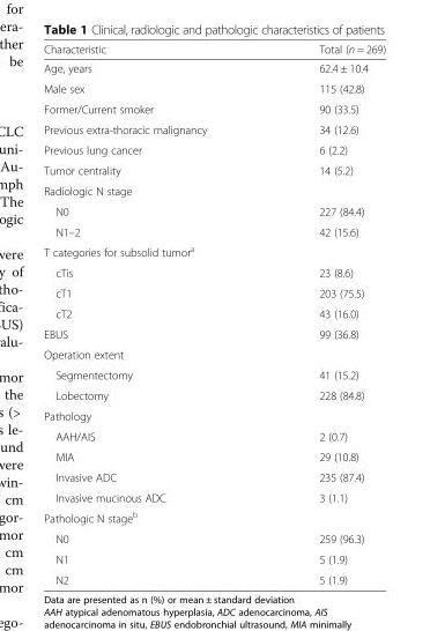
<table><thead><tr><td>Characteristic</td><td>Total (n = 269)</td></tr></thead><tbody><tr><td>Age, years</td><td>62.4 ± 10.4</td></tr><tr><td>Male sex</td><td>115 (42.8)</td></tr><tr><td>Former/Current smoker</td><td>90 (33.5)</td></tr><tr><td>Previous extra-thoracic malignancy</td><td>34 (12.6)</td></tr><tr><td>Previous lung cancer</td><td>6 (2.2)</td></tr><tr><td>Tumor centrality</td><td>14 (5.2)</td></tr><tr><td colspan="2">Radiologic N stage</td></tr><tr><td>N0</td><td>227 (84.4)</td></tr><tr><td>N1–2</td><td>42 (15.6)</td></tr><tr><td colspan="2">T categories for subsolid tumor<sup>a</sup></td></tr><tr><td>cTis</td><td>23 (8.6)</td></tr><tr><td>cT1</td><td>203 (75.5)</td></tr><tr><td>cT2</td><td>43 (16.0)</td></tr><tr><td>EBUS</td><td>99 (36.8)</td></tr><tr><td colspan="2">Operation extent</td></tr><tr><td>Segmentectomy</td><td>41 (15.2)</td></tr><tr><td>Lobectomy</td><td>228 (84.8)</td></tr><tr><td colspan="2">Pathology</td></tr><tr><td>AAH/AIS</td><td>2 (0.7)</td></tr><tr><td>MIA</td><td>29 (10.8)</td></tr><tr><td>Invasive ADC</td><td>235 (87.4)</td></tr><tr><td>Invasive mucinous ADC</td><td>3 (1.1)</td></tr><tr><td colspan="2">Pathologic N stage<sup>b</sup></td></tr><tr><td>N0</td><td>259 (96.3)</td></tr><tr><td>N1</td><td>5 (1.9)</td></tr><tr><td>N2</td><td>5 (1.9)</td></tr></tbody></table>